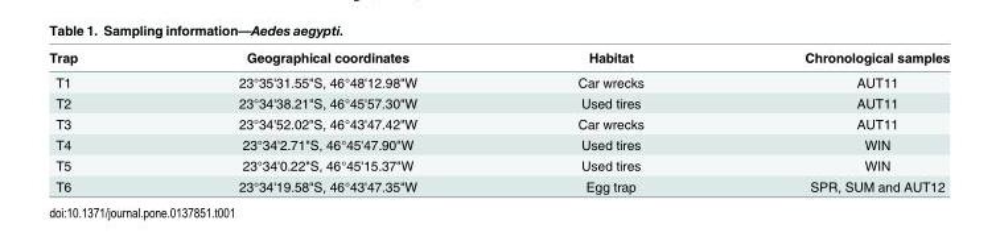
<table><thead><tr><td>Trap</td><td>Geographical coordinates</td><td>Habitat</td><td>Chronological samples</td></tr></thead><tbody><tr><td>T1</td><td>23°35&#x27;31.55&quot;S, 46°48&#x27;12.98&quot;W</td><td>Car wrecks</td><td>AUT11</td></tr><tr><td>T2</td><td>23°34&#x27;38.21&quot;S, 46°45&#x27;57.30&quot;W</td><td>Used tires</td><td>AUT11</td></tr><tr><td>T3</td><td>23°34&#x27;52.02&quot;S, 46°43&#x27;47.42&quot;W</td><td>Car wrecks</td><td>AUT11</td></tr><tr><td>T4</td><td>23°34&#x27;2.71&quot;S, 46°45&#x27;47.90&quot;W</td><td>Used tires</td><td>WIN</td></tr><tr><td>T5</td><td>23°34&#x27;0.22&quot;S, 46°45&#x27;15.37&quot;W</td><td>Used tires</td><td>WIN</td></tr><tr><td>T6</td><td>23°34&#x27;19.58&quot;S, 46°43&#x27;47.35&quot;W</td><td>Egg trap</td><td>SPR, SUM and AUT12</td></tr></tbody></table>